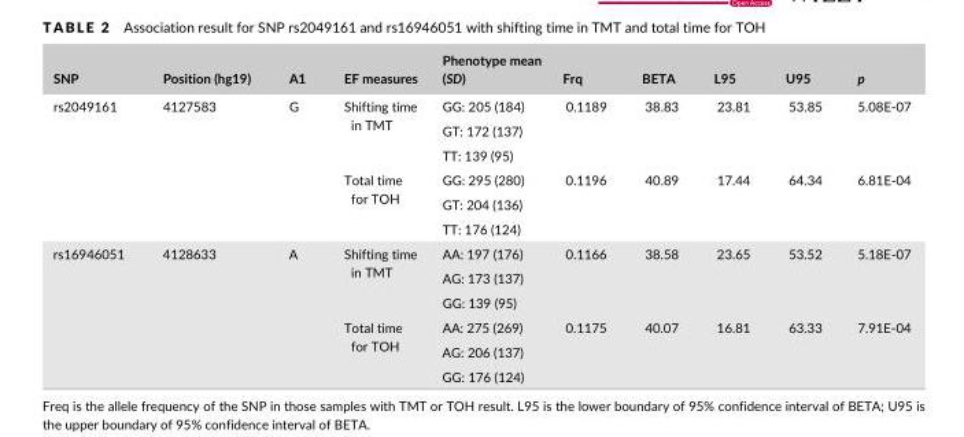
<table><thead><tr><td>SNP</td><td>Position (hg19)</td><td>A1</td><td>EF measures</td><td>Phenotype mean (SD)</td><td>Frq</td><td>BETA</td><td>L95</td><td>U95</td><td>p</td></tr></thead><tbody><tr><td rowspan="6">rs2049161</td><td rowspan="6">4127583</td><td rowspan="6">G</td><td rowspan="3">Shifting time in TMT</td><td>GG: 205 (184)</td><td rowspan="3">0.1189</td><td rowspan="3">38.83</td><td rowspan="3">23.81</td><td rowspan="3">53.85</td><td rowspan="3">5.08E- 07</td></tr><tr><td>GT: 172 (137)</td></tr><tr><td>TT: 139 (95)</td></tr><tr><td rowspan="3">Total time for TOH</td><td>GG: 295 (280)</td><td rowspan="3">0.1196</td><td rowspan="3">40.89</td><td rowspan="3">17.44</td><td rowspan="3">64.34</td><td rowspan="3">6.81E- 04</td></tr><tr><td>GT: 204 (136)</td></tr><tr><td>TT: 176 (124)</td></tr><tr><td rowspan="6">rs16946051</td><td rowspan="6">4128633</td><td rowspan="6">A</td><td rowspan="3">Shifting time in TMT</td><td>AA: 197 (176)</td><td rowspan="3">0.1166</td><td rowspan="3">38.58</td><td rowspan="3">23.65</td><td rowspan="3">53.52</td><td rowspan="3">5.18E- 07</td></tr><tr><td>AG: 173 (137)</td></tr><tr><td>GG: 139 (95)</td></tr><tr><td rowspan="3">Total time for TOH</td><td>AA: 275 (269)</td><td rowspan="3">0.1175</td><td rowspan="3">40.07</td><td rowspan="3">16.81</td><td rowspan="3">63.33</td><td rowspan="3">7.91E- 04</td></tr><tr><td>AG: 206 (137)</td></tr><tr><td>GG: 176 (124)</td></tr></tbody></table>